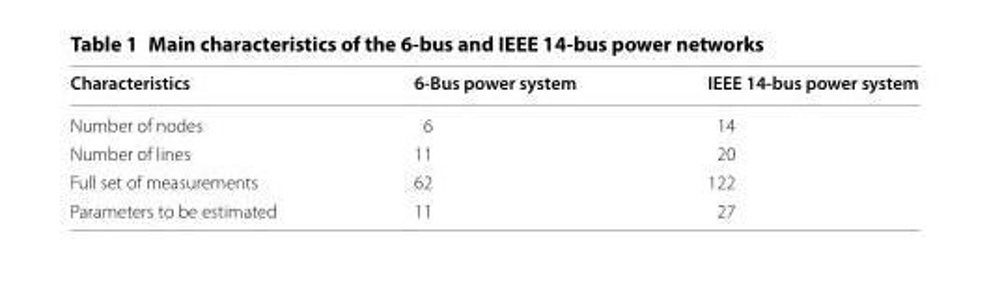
<table><thead><tr><td>Characteristics</td><td>6-Bus power system</td><td>IEEE 14-bus power system</td></tr></thead><tbody><tr><td>Number of nodes</td><td>6</td><td>14</td></tr><tr><td>Number of lines</td><td>11</td><td>20</td></tr><tr><td>Full set of measurements</td><td>62</td><td>122</td></tr><tr><td>Parameters to be estimated</td><td>11</td><td>27</td></tr></tbody></table>